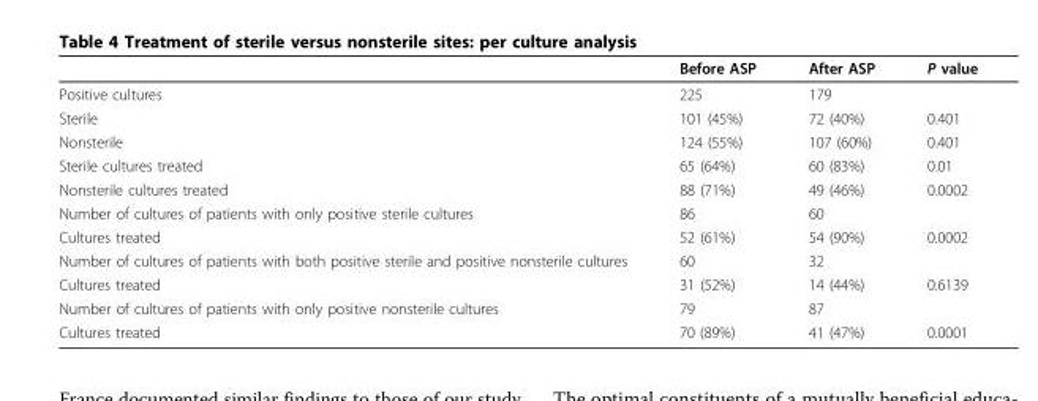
<table><thead><tr><td></td><td>Before ASP</td><td>After ASP</td><td>P value</td></tr></thead><tbody><tr><td>Positive cultures</td><td>225</td><td>179</td><td></td></tr><tr><td>Sterile</td><td>101 (45%)</td><td>72 (40%)</td><td>0.401</td></tr><tr><td>Nonsterile</td><td>124 (55%)</td><td>107 (60%)</td><td>0.401</td></tr><tr><td>Sterile cultures treated</td><td>65 (64%)</td><td>60 (83%)</td><td>0.01</td></tr><tr><td>Nonsterile cultures treated</td><td>88 (71%)</td><td>49 (46%)</td><td>0.0002</td></tr><tr><td>Number of cultures of patients with only positive sterile cultures</td><td>86</td><td>60</td><td></td></tr><tr><td>Cultures treated</td><td>52 (61%)</td><td>54 (90%)</td><td>0.0002</td></tr><tr><td>Number of cultures of patients with both positive sterile and positive nonsterile cultures</td><td>60</td><td>32</td><td></td></tr><tr><td>Cultures treated</td><td>31 (52%)</td><td>14 (44%)</td><td>0.6139</td></tr><tr><td>Number of cultures of patients with only positive nonsterile cultures</td><td>79</td><td>87</td><td></td></tr><tr><td>Cultures treated</td><td>70 (89%)</td><td>41 (47%)</td><td>0.0001</td></tr></tbody></table>